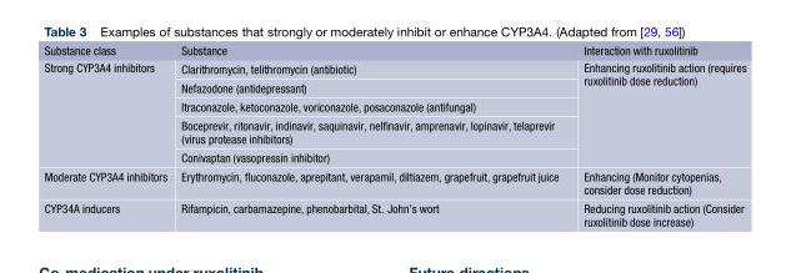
<table><thead><tr><td>Substance class</td><td>Substance</td><td>Interaction with ruxolitinib</td></tr></thead><tbody><tr><td rowspan="5">Strong CYP3A4 inhibitors</td><td>Clarithromycin, telithromycin (antibiotic)</td><td rowspan="5">Enhancing ruxolitinib action (requires ruxolitinib dose reduction)</td></tr><tr><td>Nefazodone (antidepressant)</td></tr><tr><td>Itraconazole, ketoconazole, voriconazole, posaconazole (antifungal)</td></tr><tr><td>Boceprevir, ritonavir, indinavir, saquinavir, nelfinavir, amprenavir, lopinavir, telaprevir (virus protease inhibitors)</td></tr><tr><td>Conivaptan (vasopressin inhibitor)</td></tr><tr><td>Moderate CYP3A4 inhibitors</td><td>Erythromycin, fluconazole, aprepitant, verapamil, diltiazem, grapefruit, grapefruit juice</td><td>Enhancing (Monitor cytopenias, consider dose reduction)</td></tr><tr><td>CYP34A inducers</td><td>Rifampicin, carbamazepine, phenobarbital, St. John’s wort</td><td>Reducing ruxolitinib action (Consider ruxolitinib dose increase)</td></tr></tbody></table>